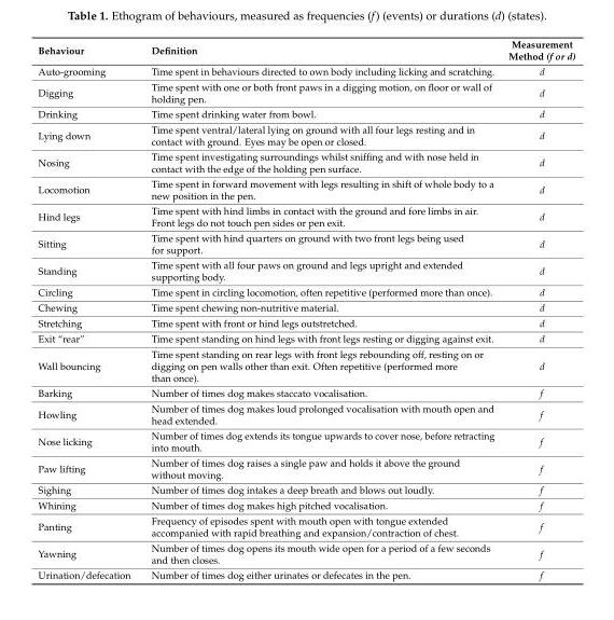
<table><thead><tr><td>Behaviour</td><td>Definition</td><td>Measurement Method (f or d)</td></tr></thead><tbody><tr><td>Auto-grooming</td><td>Time spent in behaviours directed to own body including licking and scratching.</td><td>d</td></tr><tr><td>Digging</td><td>Time spent with one or both front paws in a digging motion, on floor or wall of holding pen.</td><td>d</td></tr><tr><td>Drinking</td><td>Time spent drinking water from bowl.</td><td>d</td></tr><tr><td>Lying down</td><td>Time spent ventral/lateral lying on ground with all four legs resting and in contact with ground. Eyes may be open or closed.</td><td>d</td></tr><tr><td>Nosing</td><td>Time spent investigating surroundings whilst sniffing and with nose held in contact with the edge of the holding pen surface.</td><td>d</td></tr><tr><td>Locomotion</td><td>Time spent in forward movement with legs resulting in shift of whole body to a new position in the pen.</td><td>d</td></tr><tr><td>Hind legs</td><td>Time spent with hind limbs in contact with the ground and fore limbs in air. Front legs do not touch pen sides or pen exit.</td><td>d</td></tr><tr><td>Sitting</td><td>Time spent with hind quarters on ground with two front legs being used for support.</td><td>d</td></tr><tr><td>Standing</td><td>Time spent with all four paws on ground and legs upright and extended supporting body.</td><td>d</td></tr><tr><td>Circling</td><td>Time spent in circling locomotion, often repetitive (performed more than once).</td><td>d</td></tr><tr><td>Chewing</td><td>Time spent chewing non-nutritive material.</td><td>d</td></tr><tr><td>Stretching</td><td>Time spent with front or hind legs outstretched.</td><td>d</td></tr><tr><td>Exit “rear”</td><td>Time spent standing on hind legs with front legs resting or digging against exit.</td><td>d</td></tr><tr><td>Wall bouncing</td><td>Time spent standing on rear legs with front legs rebounding off, resting on or digging on pen walls other than exit. Often repetitive (performed more than once).</td><td>d</td></tr><tr><td>Barking</td><td>Number of times dog makes staccato vocalisation.</td><td>f</td></tr><tr><td>Howling</td><td>Number of times dog makes loud prolonged vocalisation with mouth open and head extended.</td><td>f</td></tr><tr><td>Nose licking</td><td>Number of times dog extends its tongue upwards to cover nose, before retracting into mouth.</td><td>f</td></tr><tr><td>Paw lifting</td><td>Number of times dog raises a single paw and holds it above the ground without moving.</td><td>f</td></tr><tr><td>Sighing</td><td>Number of times dog intakes a deep breath and blows out loudly.</td><td>f</td></tr><tr><td>Whining</td><td>Number of times dog makes high pitched vocalisation.</td><td>f</td></tr><tr><td>Panting</td><td>Frequency of episodes spent with mouth open with tongue extended accompanied with rapid breathing and expansion/contraction of chest.</td><td>f</td></tr><tr><td>Yawning</td><td>Number of times dog opens its mouth wide open for a period of a few seconds and then closes.</td><td>f</td></tr><tr><td>Urination/defecation</td><td>Number of times dog either urinates or defecates in the pen.</td><td>f</td></tr></tbody></table>